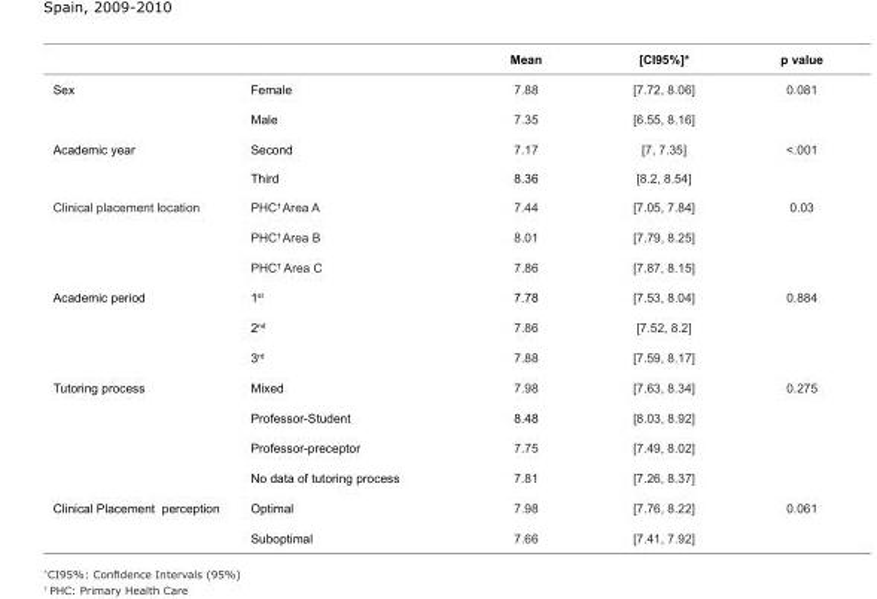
<table><thead><tr><td></td><td></td><td>Mean</td><td>[CI95%]*</td><td>p value</td></tr></thead><tbody><tr><td rowspan="2">Sex</td><td>Female</td><td>7.88</td><td>[7.72, 8.06]</td><td>0.081</td></tr><tr><td>Male</td><td>7.35</td><td>[6.55, 8.16]</td><td></td></tr><tr><td rowspan="2">Academic year</td><td>Second</td><td>7.17</td><td>[7, 7.35]</td><td>&lt;.001</td></tr><tr><td>Third</td><td>8.36</td><td>[8.2, 8.54]</td><td></td></tr><tr><td rowspan="3">Clinical placement location</td><td>PHC<sup>†</sup> Area A</td><td>7.44</td><td>[7.05, 7.84]</td><td>0.03</td></tr><tr><td>PHC<sup>†</sup> Area B</td><td>8.01</td><td>[7.79, 8.25]</td><td></td></tr><tr><td>PHC<sup>†</sup> Area C</td><td>7.86</td><td>[7.87, 8.15]</td><td></td></tr><tr><td rowspan="3">Academic period</td><td>1<sup>st</sup></td><td>7.78</td><td>[7.53, 8.04]</td><td>0.884</td></tr><tr><td>2<sup>nd</sup></td><td>7.86</td><td>[7.52, 8.2]</td><td></td></tr><tr><td>3<sup>rd</sup></td><td>7.88</td><td>[7.59, 8.17]</td><td></td></tr><tr><td rowspan="4">Tutoring process</td><td>Mixed</td><td>7.98</td><td>[7.63, 8.34]</td><td>0.275</td></tr><tr><td>Professor-Student</td><td>8.48</td><td>[8.03, 8.92]</td><td></td></tr><tr><td>Professor-preceptor</td><td>7.75</td><td>[7.49, 8.02]</td><td></td></tr><tr><td>No data of tutoring process</td><td>7.81</td><td>[7.26, 8.37]</td><td></td></tr><tr><td rowspan="2">Clinical Placement perception</td><td>Optimal</td><td>7.98</td><td>[7.76, 8.22]</td><td>0.061</td></tr><tr><td>Suboptimal</td><td>7.66</td><td>[7.41, 7.92]</td><td></td></tr></tbody></table>